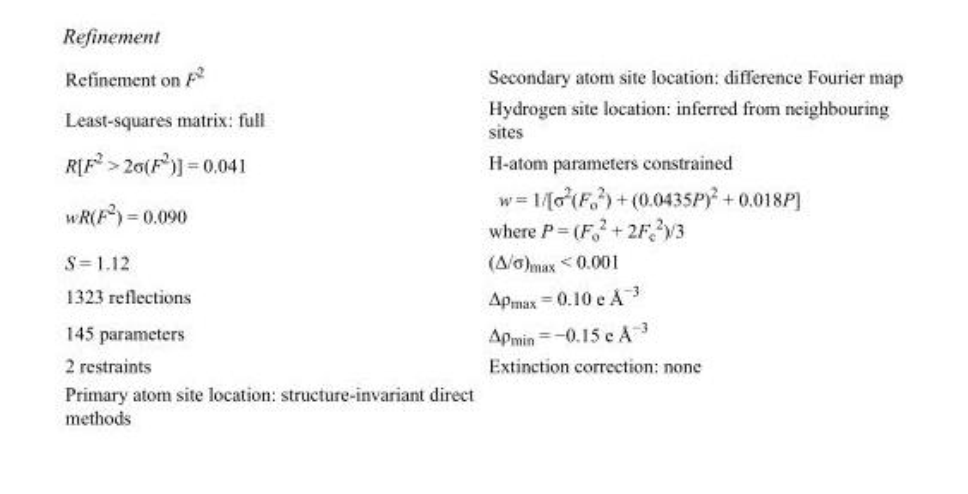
<table><tbody><tr><td>Refinement on F<sup>2</sup></td><td>Secondary atom site location: difference Fourier map</td></tr><tr><td>Least-squares matrix: full</td><td>Hydrogen site location: inferred from neighbouring sites</td></tr><tr><td>R[F<sup>2</sup> &gt; 2σ(F<sup>2</sup>)] = 0.041</td><td>H-atom parameters constrained</td></tr><tr><td>wR(F<sup>2</sup>) = 0.090</td><td>w = 1/[σ<sup>2</sup>(F<sub>o</sub> <sup>2</sup>) + (0.0435P)<sup>2</sup> + 0.018P] where P = (F<sub>o</sub> <sup>2</sup> + 2F<sub>c</sub> <sup>2</sup>)/3</td></tr><tr><td>S = 1.12</td><td>(Δ/σ)<sub>max</sub> &lt; 0.001</td></tr><tr><td>1323 reflections</td><td>Δρ<sub>max</sub> = 0.10 e Å<sup>−3</sup></td></tr><tr><td>145 parameters</td><td>Δρ<sub>min</sub> = −0.15 e Å<sup>−3</sup></td></tr><tr><td>2 restraints</td><td>Extinction correction: none</td></tr><tr><td>Primary atom site location: structure-invariant direct methods</td><td></td></tr></tbody></table>